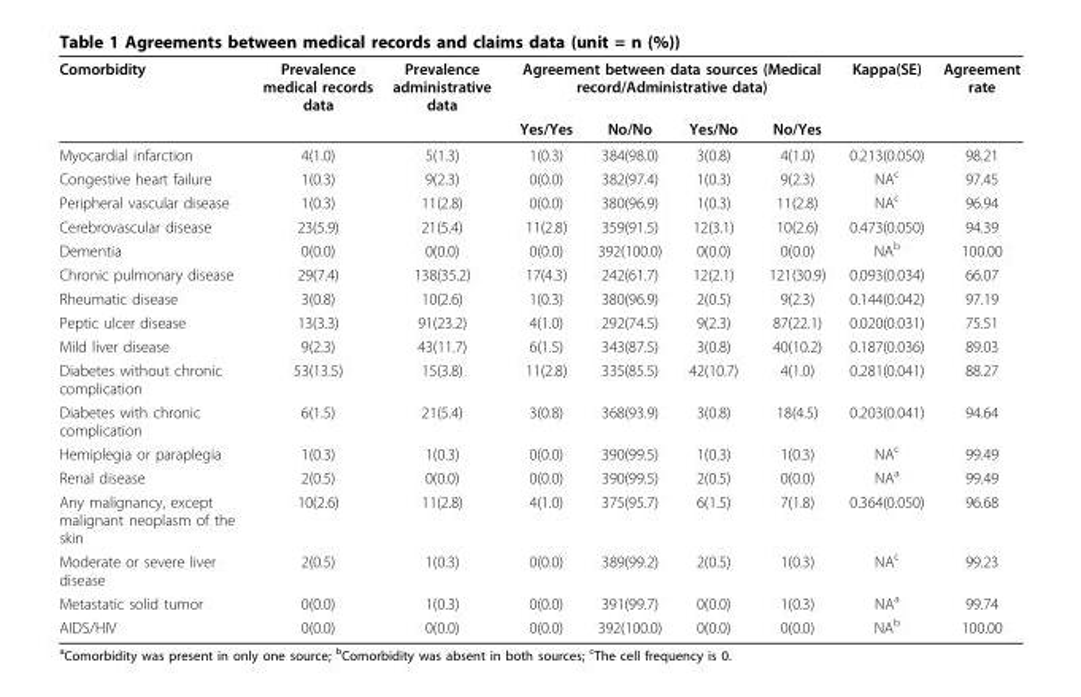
<table><thead><tr><td rowspan="2">Comorbidity</td><td rowspan="2">Prevalence medical records data</td><td rowspan="2">Prevalence administrative data</td><td colspan="4">Agreement between data sources (Medical record/Administrative data)</td><td rowspan="2">Kappa(SE)</td><td rowspan="2">Agreement rate</td></tr><tr><td>Yes/Yes</td><td>No/No</td><td>Yes/No</td><td>No/Yes</td></tr></thead><tbody><tr><td>Myocardial infarction</td><td>4(1.0)</td><td>5(1.3)</td><td>1(0.3)</td><td>384(98.0)</td><td>3(0.8)</td><td>4(1.0)</td><td>0.213(0.050)</td><td>98.21</td></tr><tr><td>Congestive heart failure</td><td>1(0.3)</td><td>9(2.3)</td><td>0(0.0)</td><td>382(97.4)</td><td>1(0.3)</td><td>9(2.3)</td><td>NA<sup>c</sup></td><td>97.45</td></tr><tr><td>Peripheral vascular disease</td><td>1(0.3)</td><td>11(2.8)</td><td>0(0.0)</td><td>380(96.9)</td><td>1(0.3)</td><td>11(2.8)</td><td>NA<sup>c</sup></td><td>96.94</td></tr><tr><td>Cerebrovascular disease</td><td>23(5.9)</td><td>21(5.4)</td><td>11(2.8)</td><td>359(91.5)</td><td>12(3.1)</td><td>10(2.6)</td><td>0.473(0.050)</td><td>94.39</td></tr><tr><td>Dementia</td><td>0(0.0)</td><td>0(0.0)</td><td>0(0.0)</td><td>392(100.0)</td><td>0(0.0)</td><td>0(0.0)</td><td>NA<sup>b</sup></td><td>100.00</td></tr><tr><td>Chronic pulmonary disease</td><td>29(7.4)</td><td>138(35.2)</td><td>17(4.3)</td><td>242(61.7)</td><td>12(2.1)</td><td>121(30.9)</td><td>0.093(0.034)</td><td>66.07</td></tr><tr><td>Rheumatic disease</td><td>3(0.8)</td><td>10(2.6)</td><td>1(0.3)</td><td>380(96.9)</td><td>2(0.5)</td><td>9(2.3)</td><td>0.144(0.042)</td><td>97.19</td></tr><tr><td>Peptic ulcer disease</td><td>13(3.3)</td><td>91(23.2)</td><td>4(1.0)</td><td>292(74.5)</td><td>9(2.3)</td><td>87(22.1)</td><td>0.020(0.031)</td><td>75.51</td></tr><tr><td>Mild liver disease</td><td>9(2.3)</td><td>43(11.7)</td><td>6(1.5)</td><td>343(87.5)</td><td>3(0.8)</td><td>40(10.2)</td><td>0.187(0.036)</td><td>89.03</td></tr><tr><td>Diabetes without chronic complication</td><td>53(13.5)</td><td>15(3.8)</td><td>11(2.8)</td><td>335(85.5)</td><td>42(10.7)</td><td>4(1.0)</td><td>0.281(0.041)</td><td>88.27</td></tr><tr><td>Diabetes with chronic complication</td><td>6(1.5)</td><td>21(5.4)</td><td>3(0.8)</td><td>368(93.9)</td><td>3(0.8)</td><td>18(4.5)</td><td>0.203(0.041)</td><td>94.64</td></tr><tr><td>Hemiplegia or paraplegia</td><td>1(0.3)</td><td>1(0.3)</td><td>0(0.0)</td><td>390(99.5)</td><td>1(0.3)</td><td>1(0.3)</td><td>NA<sup>c</sup></td><td>99.49</td></tr><tr><td>Renal disease</td><td>2(0.5)</td><td>0(0.0)</td><td>0(0.0)</td><td>390(99.5)</td><td>2(0.5)</td><td>0(0.0)</td><td>NA<sup>a</sup></td><td>99.49</td></tr><tr><td>Any malignancy, except malignant neoplasm of the skin</td><td>10(2.6)</td><td>11(2.8)</td><td>4(1.0)</td><td>375(95.7)</td><td>6(1.5)</td><td>7(1.8)</td><td>0.364(0.050)</td><td>96.68</td></tr><tr><td>Moderate or severe liver disease</td><td>2(0.5)</td><td>1(0.3)</td><td>0(0.0)</td><td>389(99.2)</td><td>2(0.5)</td><td>1(0.3)</td><td>NA<sup>c</sup></td><td>99.23</td></tr><tr><td>Metastatic solid tumor</td><td>0(0.0)</td><td>1(0.3)</td><td>0(0.0)</td><td>391(99.7)</td><td>0(0.0)</td><td>1(0.3)</td><td>NA<sup>a</sup></td><td>99.74</td></tr><tr><td>AIDS/HIV</td><td>0(0.0)</td><td>0(0.0)</td><td>0(0.0)</td><td>392(100.0)</td><td>0(0.0)</td><td>0(0.0)</td><td>NA<sup>b</sup></td><td>100.00</td></tr></tbody></table>